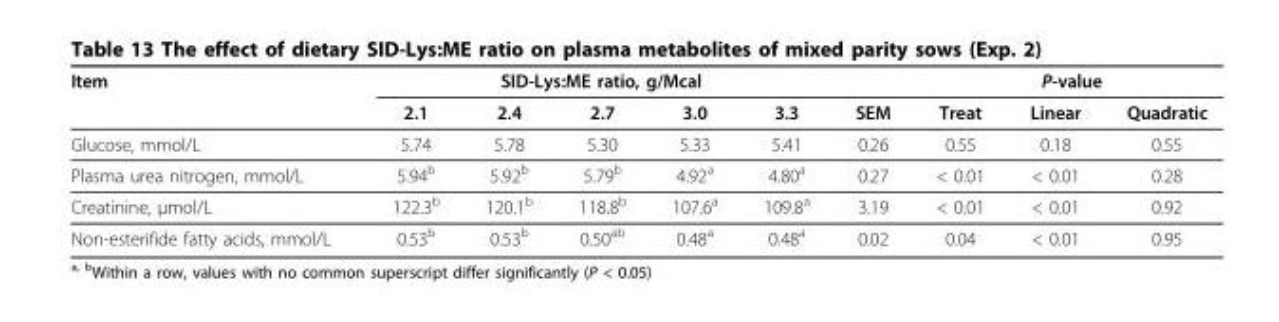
<table><thead><tr><td rowspan="2">Item</td><td colspan="5">SID-Lys:ME ratio, g/Mcal</td><td rowspan="2">SEM</td><td colspan="3">P-value</td></tr><tr><td>2.1</td><td>2.4</td><td>2.7</td><td>3.0</td><td>3.3</td><td>Treat</td><td>Linear</td><td>Quadratic</td></tr></thead><tbody><tr><td>Glucose, mmol/L</td><td>5.74</td><td>5.78</td><td>5.30</td><td>5.33</td><td>5.41</td><td>0.26</td><td>0.55</td><td>0.18</td><td>0.55</td></tr><tr><td>Plasma urea nitrogen, mmol/L</td><td>5.94<sup>b</sup></td><td>5.92<sup>b</sup></td><td>5.79<sup>b</sup></td><td>4.92<sup>a</sup></td><td>4.80<sup>a</sup></td><td>0.27</td><td>&lt; 0.01</td><td>&lt; 0.01</td><td>0.28</td></tr><tr><td>Creatinine, μmol/L</td><td>122.3<sup>b</sup></td><td>120.1<sup>b</sup></td><td>118.8<sup>b</sup></td><td>107.6<sup>a</sup></td><td>109.8<sup>a</sup></td><td>3.19</td><td>&lt; 0.01</td><td>&lt; 0.01</td><td>0.92</td></tr><tr><td>Non-esterifide fatty acids, mmol/L</td><td>0.53<sup>b</sup></td><td>0.53<sup>b</sup></td><td>0.50<sup>ab</sup></td><td>0.48<sup>a</sup></td><td>0.48<sup>a</sup></td><td>0.02</td><td>0.04</td><td>&lt; 0.01</td><td>0.95</td></tr></tbody></table>